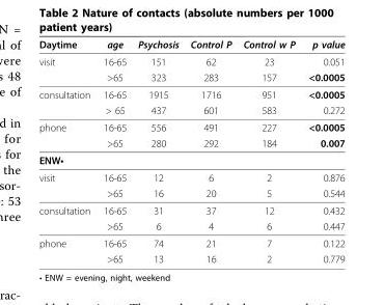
<table><thead><tr><td>Daytime</td><td>age</td><td>Psychosis</td><td>Control P</td><td>Control w P</td><td>p value</td></tr></thead><tbody><tr><td rowspan="2">visit</td><td>16-65</td><td>151</td><td>62</td><td>23</td><td>0.051</td></tr><tr><td>&gt;65</td><td>323</td><td>283</td><td>157</td><td>&lt;0.0005</td></tr><tr><td rowspan="2">consultation</td><td>16-65</td><td>1915</td><td>1716</td><td>951</td><td>&lt;0.0005</td></tr><tr><td>&gt; 65</td><td>437</td><td>601</td><td>583</td><td>0.272</td></tr><tr><td rowspan="2">phone</td><td>16-65</td><td>556</td><td>491</td><td>227</td><td>&lt;0.0005</td></tr><tr><td>&gt;65</td><td>280</td><td>292</td><td>184</td><td>0.007</td></tr><tr><td colspan="6">ENW•</td></tr><tr><td rowspan="2">visit</td><td>16-65</td><td>12</td><td>6</td><td>2</td><td>0.876</td></tr><tr><td>&gt;65</td><td>16</td><td>20</td><td>5</td><td>0.544</td></tr><tr><td rowspan="2">consultation</td><td>16-65</td><td>31</td><td>37</td><td>12</td><td>0.432</td></tr><tr><td>&gt;65</td><td>6</td><td>4</td><td>6</td><td>0.447</td></tr><tr><td rowspan="2">phone</td><td>16-65</td><td>74</td><td>21</td><td>7</td><td>0.122</td></tr><tr><td>&gt;65</td><td>13</td><td>16</td><td>2</td><td>0.779</td></tr></tbody></table>